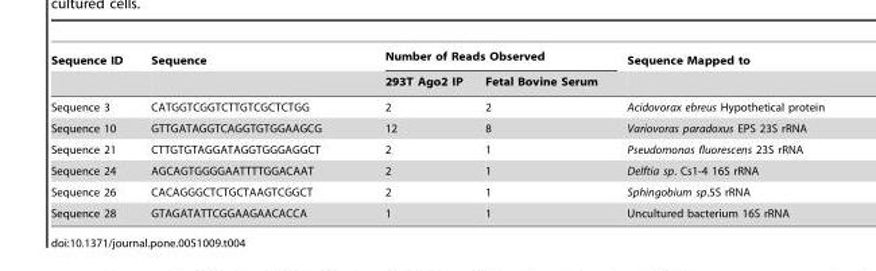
<table><thead><tr><td rowspan="2">Sequence ID</td><td rowspan="2">Sequence</td><td colspan="2">Number of Reads Observed</td><td rowspan="2">Sequence Mapped to</td></tr><tr><td>293T Ago2 IP</td><td>Fetal Bovine Serum</td></tr></thead><tbody><tr><td>Sequence 3</td><td>CATGGTCGGTCTTGTCGCTCTGG</td><td>2</td><td>2</td><td>Acidovorax ebreus Hypothetical protein</td></tr><tr><td>Sequence 10</td><td>GTTGATAGGTCAGGTGTGGAAGCG</td><td>12</td><td>8</td><td>Variovoras paradoxus EPS 23S rRNA</td></tr><tr><td>Sequence 21</td><td>CTTGTGTAGGATAGGTGGGAGGCT</td><td>2</td><td>1</td><td>Pseudomonas fluorescens 23S rRNA</td></tr><tr><td>Sequence 24</td><td>AGCAGTGGGGAATTTTGGACAAT</td><td>2</td><td>1</td><td>Delftia sp. Cs1-4 16S rRNA</td></tr><tr><td>Sequence 26</td><td>CACAGGGCTCTGCTAAGTCGGCT</td><td>2</td><td>1</td><td>Sphingobium sp.5S rRNA</td></tr><tr><td>Sequence 28</td><td>GTAGATATTCGGAAGAACACCA</td><td>1</td><td>1</td><td>Uncultured bacterium 16S rRNA</td></tr></tbody></table>